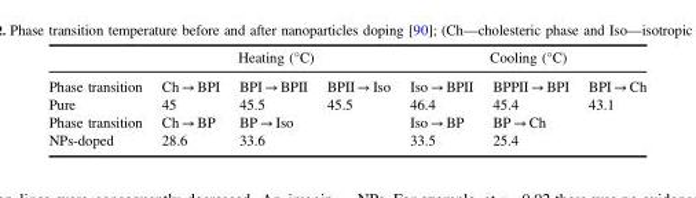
<table><thead><tr><td rowspan="2">Phase transition</td><td colspan="3">Heating (°C)</td><td colspan="3">Cooling (°C)</td></tr><tr><td>Ch → BPI</td><td>BPI → BPII</td><td>BPII → Iso</td><td>Iso → BPII</td><td>BPPII → BPI</td><td>BPI → Ch</td></tr></thead><tbody><tr><td>Pure</td><td>45</td><td>45.5</td><td>45.5</td><td>46.4</td><td>45.4</td><td>43.1</td></tr><tr><td>Phase transition</td><td>Ch → BP</td><td>BP → Iso</td><td></td><td>Iso → BP</td><td>BP → Ch</td><td></td></tr><tr><td>NPs-doped</td><td>28.6</td><td>33.6</td><td></td><td>33.5</td><td>25.4</td><td></td></tr></tbody></table>